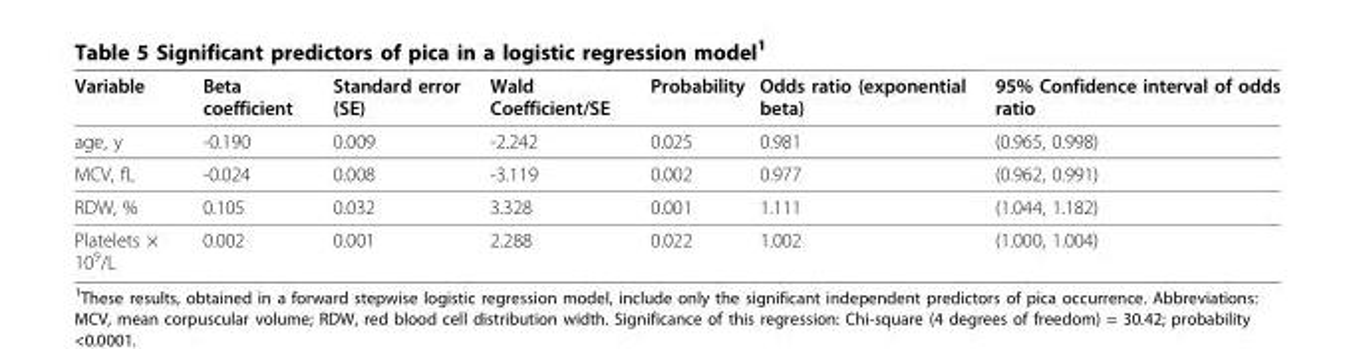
<table><thead><tr><td>Variable</td><td>Beta coefficient</td><td>Standard error (SE)</td><td>Wald Coefficient/SE</td><td>Probability</td><td>Odds ratio (exponential beta)</td><td>95% Confidence interval of odds ratio</td></tr></thead><tbody><tr><td>age, y</td><td>-0.190</td><td>0.009</td><td>-2.242</td><td>0.025</td><td>0.981</td><td>(0.965, 0.998)</td></tr><tr><td>MCV, fL</td><td>-0.024</td><td>0.008</td><td>-3.119</td><td>0.002</td><td>0.977</td><td>(0.962, 0.991)</td></tr><tr><td>RDW, %</td><td>0.105</td><td>0.032</td><td>3.328</td><td>0.001</td><td>1.111</td><td>(1.044, 1.182)</td></tr><tr><td>Platelets × 10<sup>9</sup>/L</td><td>0.002</td><td>0.001</td><td>2.288</td><td>0.022</td><td>1.002</td><td>(1.000, 1.004)</td></tr></tbody></table>